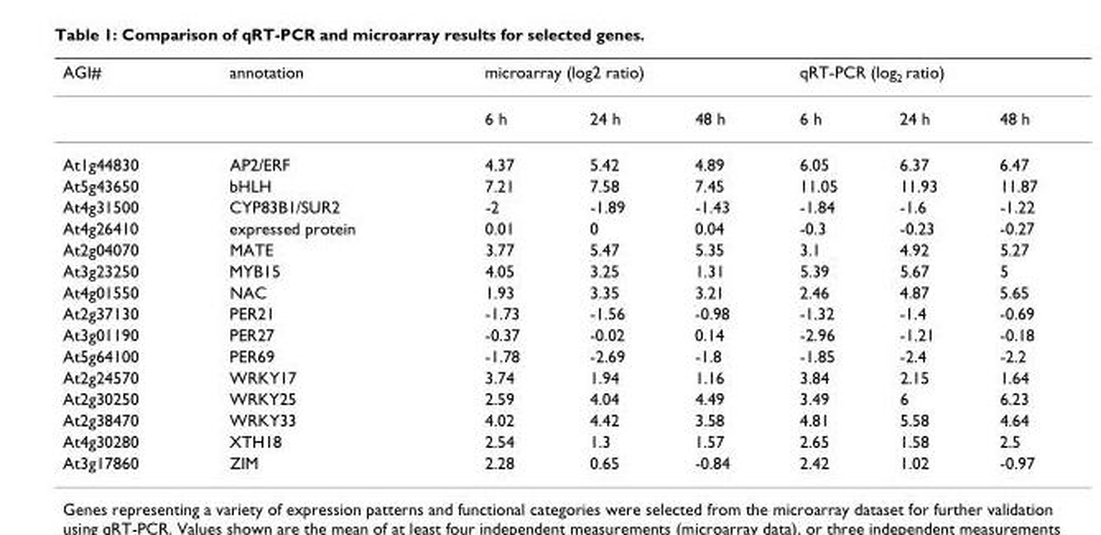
<table><thead><tr><td rowspan="2">AGI#</td><td rowspan="2">annotation</td><td colspan="3">microarray (log2 ratio)</td><td colspan="3">qRT-PCR (log2 ratio)</td></tr><tr><td>6 h</td><td>24 h</td><td>48 h</td><td>6 h</td><td>24 h</td><td>48 h</td></tr></thead><tbody><tr><td>At1g44830</td><td>AP2/ERF</td><td>4.37</td><td>5.42</td><td>4.89</td><td>6.05</td><td>6.37</td><td>6.47</td></tr><tr><td>At5g43650</td><td>bHLH</td><td>7.21</td><td>7.58</td><td>7.45</td><td>11.05</td><td>11.93</td><td>11.87</td></tr><tr><td>At4g31500</td><td>CYP83B1/SUR2</td><td>-2</td><td>-1.89</td><td>-1.43</td><td>-1.84</td><td>-1.6</td><td>-1.22</td></tr><tr><td>At4g26410</td><td>expressed protein</td><td>0.01</td><td>0</td><td>0.04</td><td>-0.3</td><td>-0.23</td><td>-0.27</td></tr><tr><td>At2g04070</td><td>MATE</td><td>3.77</td><td>5.47</td><td>5.35</td><td>3.1</td><td>4.92</td><td>5.27</td></tr><tr><td>At3g23250</td><td>MYB15</td><td>4.05</td><td>3.25</td><td>1.31</td><td>5.39</td><td>5.67</td><td>5</td></tr><tr><td>At4g01550</td><td>NAC</td><td>1.93</td><td>3.35</td><td>3.21</td><td>2.46</td><td>4.87</td><td>5.65</td></tr><tr><td>At2g37130</td><td>PER21</td><td>-1.73</td><td>-1.56</td><td>-0.98</td><td>-1.32</td><td>-1.4</td><td>-0.69</td></tr><tr><td>At3g01190</td><td>PER27</td><td>-0.37</td><td>-0.02</td><td>0.14</td><td>-2.96</td><td>-1.21</td><td>-0.18</td></tr><tr><td>At5g64100</td><td>PER69</td><td>-1.78</td><td>-2.69</td><td>-1.8</td><td>-1.85</td><td>-2.4</td><td>-2.2</td></tr><tr><td>At2g24570</td><td>WRKY17</td><td>3.74</td><td>1.94</td><td>1.16</td><td>3.84</td><td>2.15</td><td>1.64</td></tr><tr><td>At2g30250</td><td>WRKY25</td><td>2.59</td><td>4.04</td><td>4.49</td><td>3.49</td><td>6</td><td>6.23</td></tr><tr><td>At2g38470</td><td>WRKY33</td><td>4.02</td><td>4.42</td><td>3.58</td><td>4.81</td><td>5.58</td><td>4.64</td></tr><tr><td>At4g30280</td><td>XTH18</td><td>2.54</td><td>1.3</td><td>1.57</td><td>2.65</td><td>1.58</td><td>2.5</td></tr><tr><td>At3g17860</td><td>ZIM</td><td>2.28</td><td>0.65</td><td>-0.84</td><td>2.42</td><td>1.02</td><td>-0.97</td></tr></tbody></table>